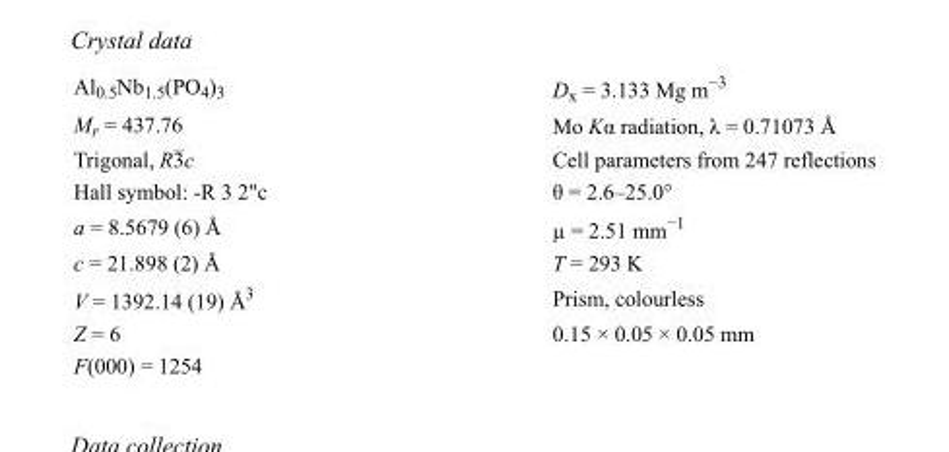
<table><tbody><tr><td>Al<sub>0.5</sub>Nb<sub>1.5</sub>(PO<sub>4</sub>)<sub>3</sub></td><td>D<sub>x</sub> = 3.133 Mg m<sup>−3</sup></td></tr><tr><td>M<sub>r</sub> = 437.76</td><td>Mo Kα radiation, λ = 0.71073 Å</td></tr><tr><td>Trigonal, R3c</td><td>Cell parameters from 247 reflections</td></tr><tr><td>Hall symbol: -R 3 2&quot;c</td><td>θ = 2.6–25.0°</td></tr><tr><td>a = 8.5679 (6) Å</td><td>µ = 2.51 mm<sup>−1</sup></td></tr><tr><td>c = 21.898 (2) Å</td><td>T = 293 K</td></tr><tr><td>V = 1392.14 (19) Å<sup>3</sup></td><td>Prism, colourless</td></tr><tr><td>Z = 6</td><td>0.15 × 0.05 × 0.05 mm</td></tr><tr><td>F(000) = 1254</td><td></td></tr></tbody></table>